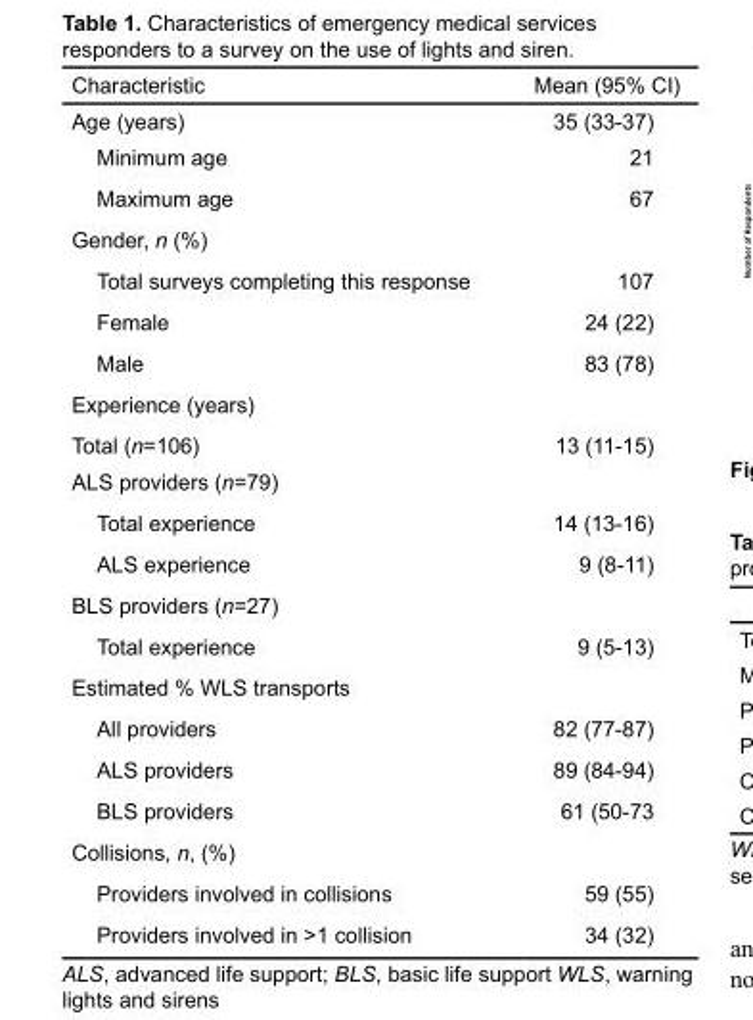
<table><thead><tr><td>Characteristic</td><td>Mean (95% CI)</td></tr></thead><tbody><tr><td>Age (years)</td><td>35 (33-37)</td></tr><tr><td>Minimum age</td><td>21</td></tr><tr><td>Maximum age</td><td>67</td></tr><tr><td colspan="2">Gender, n (%)</td></tr><tr><td>Total surveys completing this response</td><td>107</td></tr><tr><td>Female</td><td>24 (22)</td></tr><tr><td>Male</td><td>83 (78)</td></tr><tr><td colspan="2">Experience (years)</td></tr><tr><td>Total (n=106)</td><td>13 (11-15)</td></tr><tr><td colspan="2">ALS providers (n=79)</td></tr><tr><td>Total experience</td><td>14 (13-16)</td></tr><tr><td>ALS experience</td><td>9 (8-11)</td></tr><tr><td colspan="2">BLS providers (n=27)</td></tr><tr><td>Total experience</td><td>9 (5-13)</td></tr><tr><td colspan="2">Estimated % WLS transports</td></tr><tr><td>All providers</td><td>82 (77-87)</td></tr><tr><td>ALS providers</td><td>89 (84-94)</td></tr><tr><td>BLS providers</td><td>61 (50-73</td></tr><tr><td colspan="2">Collisions, n, (%)</td></tr><tr><td>Providers involved in collisions</td><td>59 (55)</td></tr><tr><td>Providers involved in &gt;1 collision</td><td>34 (32)</td></tr></tbody></table>